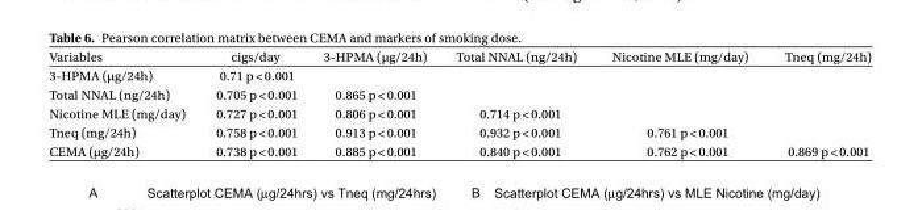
<table><thead><tr><td>Variables</td><td>cigs/day</td><td>3-HPMA (µg/24h)</td><td>Total NNAL (ng/24h)</td><td>Nicotine MLE (mg/day)</td><td>Tneq (mg/24h)</td></tr></thead><tbody><tr><td>3-HPMA (µg/24h)</td><td>0.71 p &lt; 0.001</td><td></td><td></td><td></td><td></td></tr><tr><td>Total NNAL (ng/24h)</td><td>0.705 p &lt; 0.001</td><td>0.865 p &lt; 0.001</td><td></td><td></td><td></td></tr><tr><td>Nicotine MLE (mg/day)</td><td>0.727 p &lt; 0.001</td><td>0.806 p &lt; 0.001</td><td>0.714 p &lt; 0.001</td><td></td><td></td></tr><tr><td>Tneq (mg/24h)</td><td>0.758 p &lt; 0.001</td><td>0.913 p &lt; 0.001</td><td>0.932 p &lt; 0.001</td><td>0.761 p &lt; 0.001</td><td></td></tr><tr><td>CEMA (µg/24h)</td><td>0.738 p &lt; 0.001</td><td>0.885 p &lt; 0.001</td><td>0.840 p &lt; 0.001</td><td>0.762 p &lt; 0.001</td><td>0.869 p &lt; 0.001</td></tr></tbody></table>